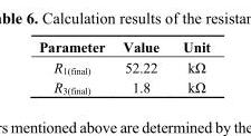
<table><thead><tr><td>Parameter</td><td>Value</td><td>Unit</td></tr></thead><tbody><tr><td>R<sub>1(final)</sub></td><td>52.22</td><td>kΩ</td></tr><tr><td>R<sub>3(final)</sub></td><td>1.8</td><td>kΩ</td></tr></tbody></table>